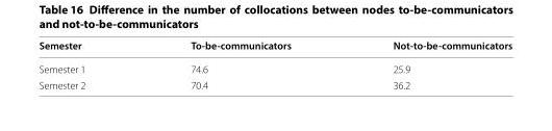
<table><thead><tr><td>Semester</td><td>To-be-communicators</td><td>Not-to-be-communicators</td></tr></thead><tbody><tr><td>Semester 1</td><td>74.6</td><td>25.9</td></tr><tr><td>Semester 2</td><td>70.4</td><td>36.2</td></tr></tbody></table>